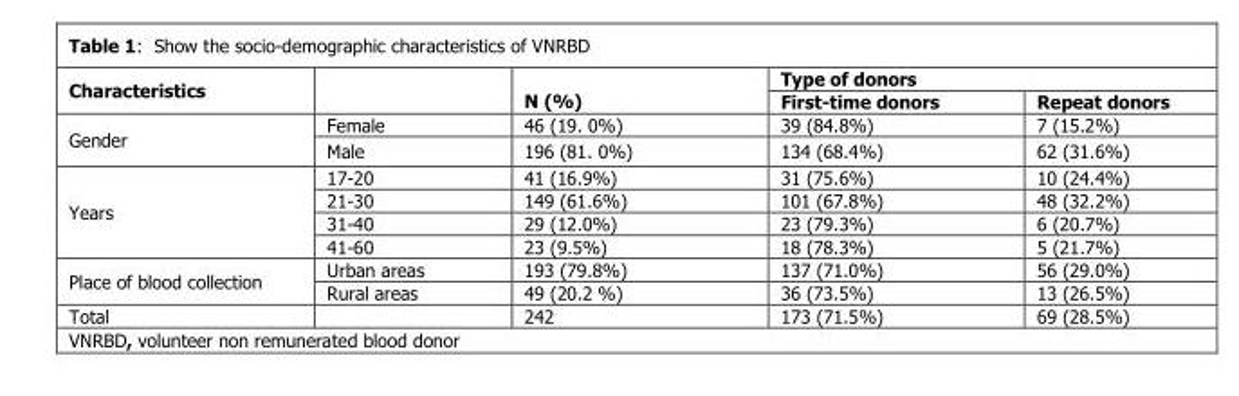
<table><thead><tr><td rowspan="2">Characteristics</td><td rowspan="2"></td><td rowspan="2">N (%)</td><td colspan="2">Type of donors</td></tr><tr><td>First-time donors</td><td>Repeat donors</td></tr></thead><tbody><tr><td rowspan="2">Gender</td><td>Female</td><td>46 (19. 0%)</td><td>39 (84.8%)</td><td>7 (15.2%)</td></tr><tr><td>Male</td><td>196 (81. 0%)</td><td>134 (68.4%)</td><td>62 (31.6%)</td></tr><tr><td rowspan="4">Years</td><td>17-20</td><td>41 (16.9%)</td><td>31 (75.6%)</td><td>10 (24.4%)</td></tr><tr><td>21-30</td><td>149 (61.6%)</td><td>101 (67.8%)</td><td>48 (32.2%)</td></tr><tr><td>31-40</td><td>29 (12.0%)</td><td>23 (79.3%)</td><td>6 (20.7%)</td></tr><tr><td>41-60</td><td>23 (9.5%)</td><td>18 (78.3%)</td><td>5 (21.7%)</td></tr><tr><td rowspan="2">Place of blood collection</td><td>Urban areas</td><td>193 (79.8%)</td><td>137 (71.0%)</td><td>56 (29.0%)</td></tr><tr><td>Rural areas</td><td>49 (20.2 %)</td><td>36 (73.5%)</td><td>13 (26.5%)</td></tr><tr><td>Total</td><td></td><td>242</td><td>173 (71.5%)</td><td>69 (28.5%)</td></tr></tbody></table>